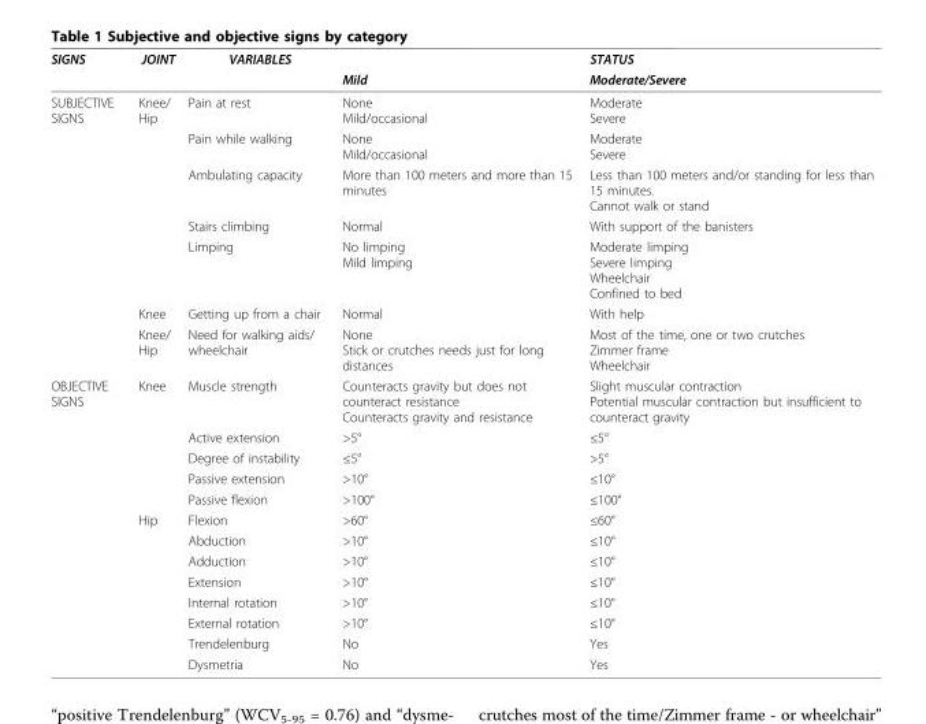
<table><thead><tr><td rowspan="2">SIGNS</td><td rowspan="2">JOINT</td><td rowspan="2">VARIABLES</td><td colspan="2">STATUS</td></tr><tr><td>Mild</td><td>Moderate/Severe</td></tr></thead><tbody><tr><td rowspan="7">SUBJECTIVE SIGNS</td><td>Knee/ Hip</td><td>Pain at rest</td><td>None Mild/occasional</td><td>Moderate Severe</td></tr><tr><td></td><td>Pain while walking</td><td>None Mild/occasional</td><td>Moderate Severe</td></tr><tr><td></td><td>Ambulating capacity</td><td>More than 100 meters and more than 15 minutes</td><td>Less than 100 meters and/or standing for less than 15 minutes. Cannot walk or stand</td></tr><tr><td></td><td>Stairs climbing</td><td>Normal</td><td>With support of the banisters</td></tr><tr><td></td><td>Limping</td><td>No limping Mild limping</td><td>Moderate limping Severe limping Wheelchair Confined to bed</td></tr><tr><td>Knee</td><td>Getting up from a chair</td><td>Normal</td><td>With help</td></tr><tr><td>Knee/ Hip</td><td>Need for walking aids/ wheelchair</td><td>None Stick or crutches needs just for long distances</td><td>Most of the time, one or two crutches Zimmer frame Wheelchair</td></tr><tr><td rowspan="13">OBJECTIVE SIGNS</td><td>Knee</td><td>Muscle strength</td><td>Counteracts gravity but does not counteract resistance Counteracts gravity and resistance</td><td>Slight muscular contraction Potential muscular contraction but insufficient to counteract gravity</td></tr><tr><td></td><td>Active extension</td><td>&gt;5°</td><td>≤5°</td></tr><tr><td></td><td>Degree of instability</td><td>≤5°</td><td>&gt;5°</td></tr><tr><td></td><td>Passive extension</td><td>&gt;10°</td><td>≤10°</td></tr><tr><td></td><td>Passive flexion</td><td>&gt;100°</td><td>≤100°</td></tr><tr><td>Hip</td><td>Flexion</td><td>&gt;60°</td><td>≤60°</td></tr><tr><td></td><td>Abduction</td><td>&gt;10°</td><td>≤10°</td></tr><tr><td></td><td>Adduction</td><td>&gt;10°</td><td>≤10°</td></tr><tr><td></td><td>Extension</td><td>&gt;10°</td><td>≤10°</td></tr><tr><td></td><td>Internal rotation</td><td>&gt;10°</td><td>≤10°</td></tr><tr><td></td><td>External rotation</td><td>&gt;10°</td><td>≤10°</td></tr><tr><td></td><td>Trendelenburg</td><td>No</td><td>Yes</td></tr><tr><td></td><td>Dysmetria</td><td>No</td><td>Yes</td></tr></tbody></table>